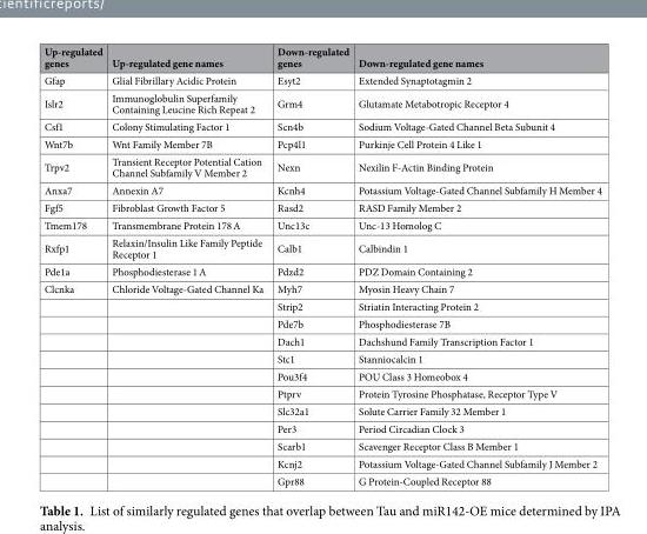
<table><thead><tr><td>Up-regulated genes</td><td>Up-regulated gene names</td><td>Down-regulated genes</td><td>Down-regulated gene names</td></tr></thead><tbody><tr><td>Gfap</td><td>Glial Fibrillary Acidic Protein</td><td>Esyt2</td><td>Extended Synaptotagmin 2</td></tr><tr><td>Islr2</td><td>Immunoglobulin Superfamily Containing Leucine Rich Repeat 2</td><td>Grm4</td><td>Glutamate Metabotropic Receptor 4</td></tr><tr><td>Csf1</td><td>Colony Stimulating Factor 1</td><td>Scn4b</td><td>Sodium Voltage-Gated Channel Beta Subunit 4</td></tr><tr><td>Wnt7b</td><td>Wnt Family Member 7B</td><td>Pcp4l1</td><td>Purkinje Cell Protein 4 Like 1</td></tr><tr><td>Trpv2</td><td>Transient Receptor Potential Cation Channel Subfamily V Member 2</td><td>Nexn</td><td>Nexilin F-Actin Binding Protein</td></tr><tr><td>Anxa7</td><td>Annexin A7</td><td>Kcnh4</td><td>Potassium Voltage-Gated Channel Subfamily H Member 4</td></tr><tr><td>Fgf5</td><td>Fibroblast Growth Factor 5</td><td>Rasd2</td><td>RASD Family Member 2</td></tr><tr><td>Tmem178</td><td>Transmembrane Protein 178 A</td><td>Unc13c</td><td>Unc-13 Homolog C</td></tr><tr><td>Rxfp1</td><td>Relaxin/Insulin Like Family Peptide Receptor 1</td><td>Calb1</td><td>Calbindin 1</td></tr><tr><td>Pde1a</td><td>Phosphodiesterase 1 A</td><td>Pdzd2</td><td>PDZ Domain Containing 2</td></tr><tr><td rowspan="12">Clcnka</td><td>Chloride Voltage-Gated Channel Ka</td><td>Myh7</td><td>Myosin Heavy Chain 7</td></tr><tr><td></td><td>Strip2</td><td>Striatin Interacting Protein 2</td></tr><tr><td></td><td>Pde7b</td><td>Phosphodiesterase 7B</td></tr><tr><td></td><td>Dach1</td><td>Dachshund Family Transcription Factor 1</td></tr><tr><td></td><td>Stc1</td><td>Stanniocalcin 1</td></tr><tr><td></td><td>Pou3f4</td><td>POU Class 3 Homeobox 4</td></tr><tr><td></td><td>Ptprv</td><td>Protein Tyrosine Phosphatase, Receptor Type V</td></tr><tr><td></td><td>Slc32a1</td><td>Solute Carrier Family 32 Member 1</td></tr><tr><td></td><td>Per3</td><td>Period Circadian Clock 3</td></tr><tr><td></td><td>Scarb1</td><td>Scavenger Receptor Class B Member 1</td></tr><tr><td></td><td>Kcnj2</td><td>Potassium Voltage-Gated Channel Subfamily J Member 2</td></tr><tr><td></td><td>Gpr88</td><td>G Protein-Coupled Receptor 88</td></tr></tbody></table>